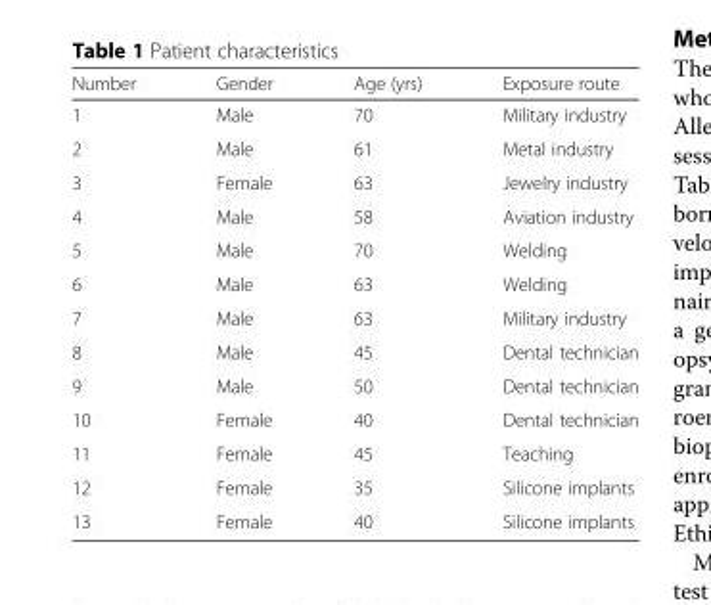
<table><thead><tr><td>Number</td><td>Gender</td><td>Age (yrs)</td><td>Exposure route</td></tr></thead><tbody><tr><td>1</td><td>Male</td><td>70</td><td>Military industry</td></tr><tr><td>2</td><td>Male</td><td>61</td><td>Metal industry</td></tr><tr><td>3</td><td>Female</td><td>63</td><td>Jewelry industry</td></tr><tr><td>4</td><td>Male</td><td>58</td><td>Aviation industry</td></tr><tr><td>5</td><td>Male</td><td>70</td><td>Welding</td></tr><tr><td>6</td><td>Male</td><td>63</td><td>Welding</td></tr><tr><td>7</td><td>Male</td><td>63</td><td>Military industry</td></tr><tr><td>8</td><td>Male</td><td>45</td><td>Dental technician</td></tr><tr><td>9</td><td>Male</td><td>50</td><td>Dental technician</td></tr><tr><td>10</td><td>Female</td><td>40</td><td>Dental technician</td></tr><tr><td>11</td><td>Female</td><td>45</td><td>Teaching</td></tr><tr><td>12</td><td>Female</td><td>35</td><td>Silicone implants</td></tr><tr><td>13</td><td>Female</td><td>40</td><td>Silicone implants</td></tr></tbody></table>